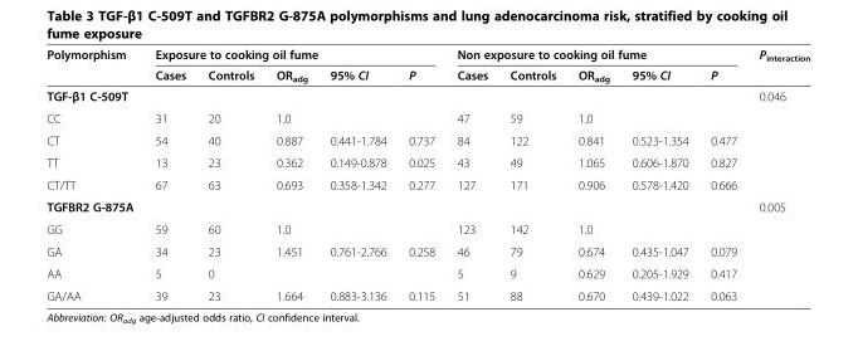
<table><thead><tr><td rowspan="2">Polymorphism</td><td colspan="5">Exposure to cooking oil fume</td><td colspan="5">Non exposure to cooking oil fume</td><td rowspan="2">P<sub>interaction</sub></td></tr><tr><td>Cases</td><td>Controls</td><td>OR<sub>adg</sub></td><td>95% CI</td><td>P</td><td>Cases</td><td>Controls</td><td>OR<sub>adg</sub></td><td>95% CI</td><td>P</td></tr></thead><tbody><tr><td>TGF-β1 C-509T</td><td></td><td></td><td></td><td></td><td></td><td></td><td></td><td></td><td></td><td></td><td>0.046</td></tr><tr><td>CC</td><td>31</td><td>20</td><td>1.0</td><td></td><td></td><td>47</td><td>59</td><td>1.0</td><td></td><td></td><td></td></tr><tr><td>CT</td><td>54</td><td>40</td><td>0.887</td><td>0.441-1.784</td><td>0.737</td><td>84</td><td>122</td><td>0.841</td><td>0.523-1.354</td><td>0.477</td><td></td></tr><tr><td>TT</td><td>13</td><td>23</td><td>0.362</td><td>0.149-0.878</td><td>0.025</td><td>43</td><td>49</td><td>1.065</td><td>0.606-1.870</td><td>0.827</td><td></td></tr><tr><td>CT/TT</td><td>67</td><td>63</td><td>0.693</td><td>0.358-1.342</td><td>0.277</td><td>127</td><td>171</td><td>0.906</td><td>0.578-1.420</td><td>0.666</td><td></td></tr><tr><td>TGFBR2 G-875A</td><td></td><td></td><td></td><td></td><td></td><td></td><td></td><td></td><td></td><td></td><td>0.005</td></tr><tr><td>GG</td><td>59</td><td>60</td><td>1.0</td><td></td><td></td><td>123</td><td>142</td><td>1.0</td><td></td><td></td><td></td></tr><tr><td>GA</td><td>34</td><td>23</td><td>1.451</td><td>0.761-2.766</td><td>0.258</td><td>46</td><td>79</td><td>0.674</td><td>0.435-1.047</td><td>0.079</td><td></td></tr><tr><td>AA</td><td>5</td><td>0</td><td></td><td></td><td></td><td>5</td><td>9</td><td>0.629</td><td>0.205-1.929</td><td>0.417</td><td></td></tr><tr><td>GA/AA</td><td>39</td><td>23</td><td>1.664</td><td>0.883-3.136</td><td>0.115</td><td>51</td><td>88</td><td>0.670</td><td>0.439-1.022</td><td>0.063</td><td></td></tr></tbody></table>